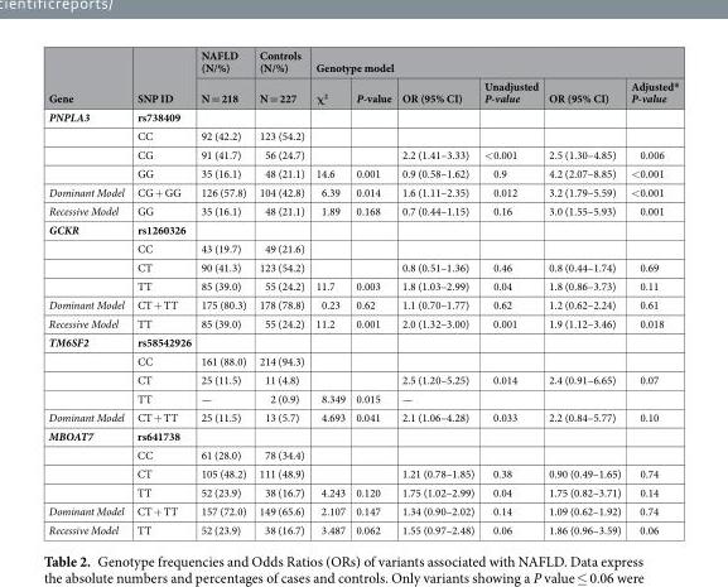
<table><thead><tr><td rowspan="2">Gene</td><td rowspan="2">SNP ID</td><td rowspan="2">NAFLD (N/%) N = 218</td><td rowspan="2">Controls (N/%) N = 227</td><td colspan="6">Genotype model</td></tr><tr><td>χ<sup>2</sup></td><td>P-value</td><td>OR (95% CI)</td><td>Unadjusted P-value</td><td>OR (95% CI)</td><td>Adjusted* P-value</td></tr></thead><tbody><tr><td rowspan="4">PNPLA3</td><td>rs738409</td><td></td><td></td><td></td><td></td><td></td><td></td><td></td><td></td></tr><tr><td>CC</td><td>92 (42.2)</td><td>123 (54.2)</td><td></td><td></td><td></td><td></td><td></td><td></td></tr><tr><td>CG</td><td>91 (41.7)</td><td>56 (24.7)</td><td></td><td></td><td>2.2 (1.41–3.33)</td><td>&lt;0.001</td><td>2.5 (1.30–4.85)</td><td>0.006</td></tr><tr><td>GG</td><td>35 (16.1)</td><td>48 (21.1)</td><td>14.6</td><td>0.001</td><td>0.9 (0.58–1.62)</td><td>0.9</td><td>4.2 (2.07–8.85)</td><td>&lt;0.001</td></tr><tr><td>Dominant Model</td><td>CG + GG</td><td>126 (57.8)</td><td>104 (42.8)</td><td>6.39</td><td>0.014</td><td>1.6 (1.11–2.35)</td><td>0.012</td><td>3.2 (1.79–5.59)</td><td>&lt;0.001</td></tr><tr><td>Recessive Model</td><td>GG</td><td>35 (16.1)</td><td>48 (21.1)</td><td>1.89</td><td>0.168</td><td>0.7 (0.44–1.15)</td><td>0.16</td><td>3.0 (1.55–5.93)</td><td>0.001</td></tr><tr><td rowspan="4">GCKR</td><td>rs1260326</td><td></td><td></td><td></td><td></td><td></td><td></td><td></td><td></td></tr><tr><td>CC</td><td>43 (19.7)</td><td>49 (21.6)</td><td></td><td></td><td></td><td></td><td></td><td></td></tr><tr><td>CT</td><td>90 (41.3)</td><td>123 (54.2)</td><td></td><td></td><td>0.8 (0.51–1.36)</td><td>0.46</td><td>0.8 (0.44–1.74)</td><td>0.69</td></tr><tr><td>TT</td><td>85 (39.0)</td><td>55 (24.2)</td><td>11.7</td><td>0.003</td><td>1.8 (1.03–2.99)</td><td>0.04</td><td>1.8 (0.86–3.73)</td><td>0.11</td></tr><tr><td>Dominant Model</td><td>CT + TT</td><td>175 (80.3)</td><td>178 (78.8)</td><td>0.23</td><td>0.62</td><td>1.1 (0.70–1.77)</td><td>0.62</td><td>1.2 (0.62–2.24)</td><td>0.61</td></tr><tr><td>Recessive Model</td><td>TT</td><td>85 (39.0)</td><td>55 (24.2)</td><td>11.2</td><td>0.001</td><td>2.0 (1.32–3.00)</td><td>0.001</td><td>1.9 (1.12–3.46)</td><td>0.018</td></tr><tr><td rowspan="4">TM6SF2</td><td>rs58542926</td><td></td><td></td><td></td><td></td><td></td><td></td><td></td><td></td></tr><tr><td>CC</td><td>161 (88.0)</td><td>214 (94.3)</td><td></td><td></td><td></td><td></td><td></td><td></td></tr><tr><td>CT</td><td>25 (11.5)</td><td>11 (4.8)</td><td></td><td></td><td>2.5 (1.20–5.25)</td><td>0.014</td><td>2.4 (0.91–6.65)</td><td>0.07</td></tr><tr><td>TT</td><td>—</td><td>2 (0.9)</td><td>8.349</td><td>0.015</td><td>—</td><td></td><td></td><td></td></tr><tr><td>Dominant Model</td><td>CT + TT</td><td>25 (11.5)</td><td>13 (5.7)</td><td>4.693</td><td>0.041</td><td>2.1 (1.06–4.28)</td><td>0.033</td><td>2.2 (0.84–5.77)</td><td>0.10</td></tr><tr><td rowspan="4">MBOAT7</td><td>rs641738</td><td></td><td></td><td></td><td></td><td></td><td></td><td></td><td></td></tr><tr><td>CC</td><td>61 (28.0)</td><td>78 (34.4)</td><td></td><td></td><td></td><td></td><td></td><td></td></tr><tr><td>CT</td><td>105 (48.2)</td><td>111 (48.9)</td><td></td><td></td><td>1.21 (0.78–1.85)</td><td>0.38</td><td>0.90 (0.49–1.65)</td><td>0.74</td></tr><tr><td>TT</td><td>52 (23.9)</td><td>38 (16.7)</td><td>4.243</td><td>0.120</td><td>1.75 (1.02–2.99)</td><td>0.04</td><td>1.75 (0.82–3.71)</td><td>0.14</td></tr><tr><td>Dominant Model</td><td>CT + TT</td><td>157 (72.0)</td><td>149 (65.6)</td><td>2.107</td><td>0.147</td><td>1.34 (0.90–2.02)</td><td>0.14</td><td>1.09 (0.62–1.92)</td><td>0.74</td></tr><tr><td>Recessive Model</td><td>TT</td><td>52 (23.9)</td><td>38 (16.7)</td><td>3.487</td><td>0.062</td><td>1.55 (0.97–2.48)</td><td>0.06</td><td>1.86 (0.96–3.59)</td><td>0.06</td></tr></tbody></table>